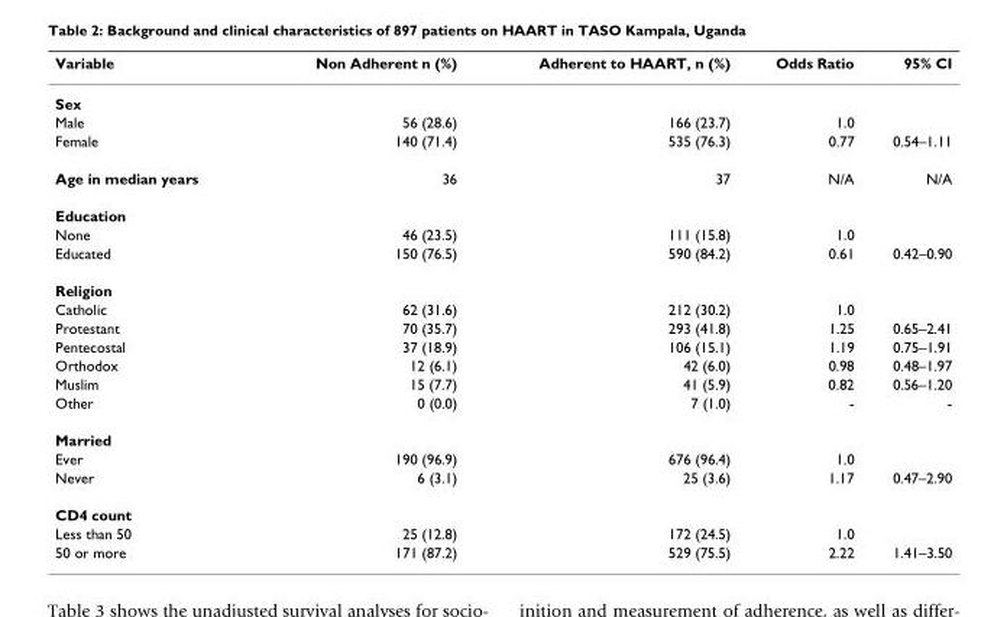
<table><thead><tr><td>Variable</td><td>Non Adherent n (%)</td><td>Adherent to HAART, n (%)</td><td>Odds Ratio</td><td>95% CI</td></tr></thead><tbody><tr><td colspan="5">Sex</td></tr><tr><td>Male</td><td>56 (28.6)</td><td>166 (23.7)</td><td>1.0</td><td></td></tr><tr><td>Female</td><td>140 (71.4)</td><td>535 (76.3)</td><td>0.77</td><td>0.54–1.11</td></tr><tr><td>Age in median years</td><td>36</td><td>37</td><td>N/A</td><td>N/A</td></tr><tr><td colspan="5">Education</td></tr><tr><td>None</td><td>46 (23.5)</td><td>111 (15.8)</td><td>1.0</td><td></td></tr><tr><td>Educated</td><td>150 (76.5)</td><td>590 (84.2)</td><td>0.61</td><td>0.42–0.90</td></tr><tr><td colspan="5">Religion</td></tr><tr><td>Catholic</td><td>62 (31.6)</td><td>212 (30.2)</td><td>1.0</td><td></td></tr><tr><td>Protestant</td><td>70 (35.7)</td><td>293 (41.8)</td><td>1.25</td><td>0.65–2.41</td></tr><tr><td>Pentecostal</td><td>37 (18.9)</td><td>106 (15.1)</td><td>1.19</td><td>0.75–1.91</td></tr><tr><td>Orthodox</td><td>12 (6.1)</td><td>42 (6.0)</td><td>0.98</td><td>0.48–1.97</td></tr><tr><td>Muslim</td><td>15 (7.7)</td><td>41 (5.9)</td><td>0.82</td><td>0.56–1.20</td></tr><tr><td>Other</td><td>0 (0.0)</td><td>7 (1.0)</td><td>-</td><td>-</td></tr><tr><td colspan="5">Married</td></tr><tr><td>Ever</td><td>190 (96.9)</td><td>676 (96.4)</td><td>1.0</td><td></td></tr><tr><td>Never</td><td>6 (3.1)</td><td>25 (3.6)</td><td>1.17</td><td>0.47–2.90</td></tr><tr><td colspan="5">CD4 count</td></tr><tr><td>Less than 50</td><td>25 (12.8)</td><td>172 (24.5)</td><td>1.0</td><td></td></tr><tr><td>50 or more</td><td>171 (87.2)</td><td>529 (75.5)</td><td>2.22</td><td>1.41–3.50</td></tr></tbody></table>